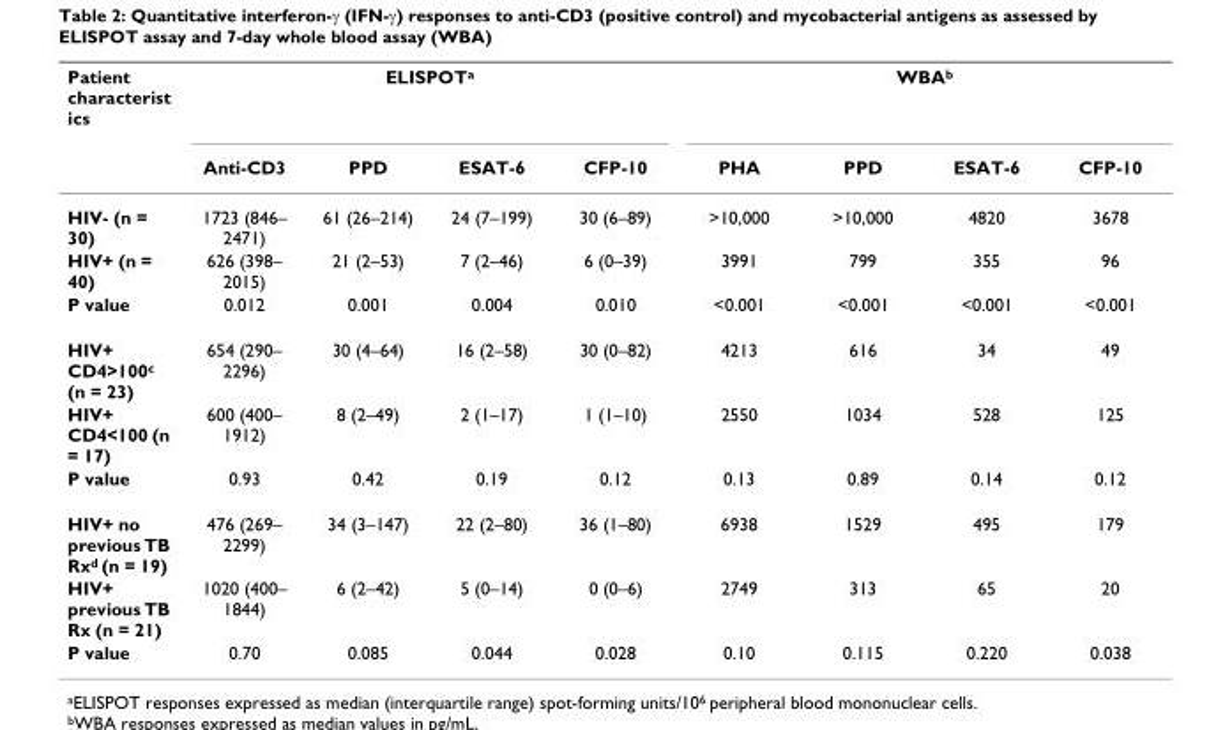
<table><thead><tr><td rowspan="2">Patient characterist ics</td><td colspan="4">ELISPOT<sup>a</sup></td><td colspan="4">WBA<sup>b</sup></td></tr><tr><td>Anti-CD3</td><td>PPD</td><td>ESAT-6</td><td>CFP-10</td><td>PHA</td><td>PPD</td><td>ESAT-6</td><td>CFP-10</td></tr></thead><tbody><tr><td>HIV- (n = 30)</td><td>1723 (846– 2471)</td><td>61 (26–214)</td><td>24 (7–199)</td><td>30 (6–89)</td><td>&gt;10,000</td><td>&gt;10,000</td><td>4820</td><td>3678</td></tr><tr><td>HIV+ (n = 40)</td><td>626 (398– 2015)</td><td>21 (2–53)</td><td>7 (2–46)</td><td>6 (0–39)</td><td>3991</td><td>799</td><td>355</td><td>96</td></tr><tr><td>P value</td><td>0.012</td><td>0.001</td><td>0.004</td><td>0.010</td><td>&lt;0.001</td><td>&lt;0.001</td><td>&lt;0.001</td><td>&lt;0.001</td></tr><tr><td>HIV+ CD4&gt;100<sup>c</sup> (n = 23)</td><td>654 (290– 2296)</td><td>30 (4–64)</td><td>16 (2–58)</td><td>30 (0–82)</td><td>4213</td><td>616</td><td>34</td><td>49</td></tr><tr><td>HIV+ CD4&lt;100 (n = 17)</td><td>600 (400– 1912)</td><td>8 (2–49)</td><td>2 (1–17)</td><td>1 (1–10)</td><td>2550</td><td>1034</td><td>528</td><td>125</td></tr><tr><td>P value</td><td>0.93</td><td>0.42</td><td>0.19</td><td>0.12</td><td>0.13</td><td>0.89</td><td>0.14</td><td>0.12</td></tr><tr><td>HIV+ no previous TB Rx<sup>d</sup> (n = 19)</td><td>476 (269– 2299)</td><td>34 (3–147)</td><td>22 (2–80)</td><td>36 (1–80)</td><td>6938</td><td>1529</td><td>495</td><td>179</td></tr><tr><td>HIV+ previous TB Rx (n = 21)</td><td>1020 (400– 1844)</td><td>6 (2–42)</td><td>5 (0–14)</td><td>0 (0–6)</td><td>2749</td><td>313</td><td>65</td><td>20</td></tr><tr><td>P value</td><td>0.70</td><td>0.085</td><td>0.044</td><td>0.028</td><td>0.10</td><td>0.115</td><td>0.220</td><td>0.038</td></tr></tbody></table>